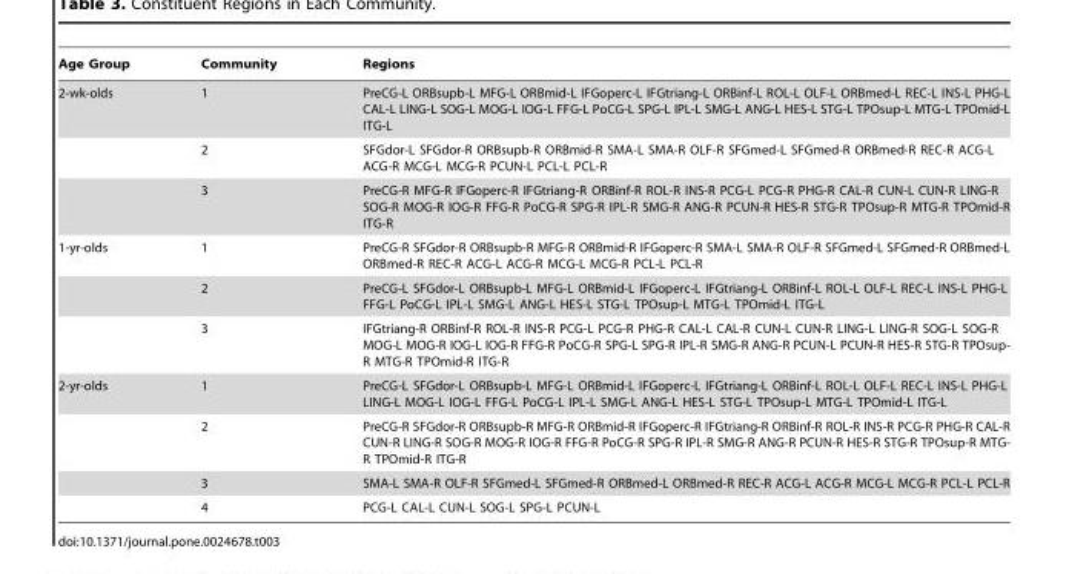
<table><thead><tr><td>Age Group</td><td>Community</td><td>Regions</td></tr></thead><tbody><tr><td rowspan="3">2-wk-olds</td><td>1</td><td>PreCG-L ORBsupb-L MFG-L ORBmid-L IFGoperc-L IFGtriang-L ORBinf-L ROL-L OLF-L ORBmed-L REC-L INS-L PHG-L CAL-L LING-L SOG-L MOG-L IOG-L FFG-L PoCG-L SPG-L IPL-L SMG-L ANG-L HES-L STG-L TPOsup-L MTG-L TPOmid-L ITG-L</td></tr><tr><td>2</td><td>SFGdor-L SFGdor-R ORBsupb-R ORBmid-R SMA-L SMA-R OLF-R SFGmed-L SFGmed-R ORBmed-R REC-R ACG-L ACG-R MCG-L MCG-R PCUN-L PCL-L PCL-R</td></tr><tr><td>3</td><td>PreCG-R MFG-R IFGoperc-R IFGtriang-R ORBinf-R ROL-R INS-R PCG-L PCG-R PHG-R CAL-R CUN-L CUN-R LING-R SOG-R MOG-R IOG-R FFG-R PoCG-R SPG-R IPL-R SMG-R ANG-R PCUN-R HES-R STG-R TPOsup-R MTG-R TPOmid-R ITG-R</td></tr><tr><td rowspan="3">1-yr-olds</td><td>1</td><td>PreCG-R SFGdor-R ORBsupb-R MFG-R ORBmid-R IFGoperc-R SMA-L SMA-R OLF-R SFGmed-L SFGmed-R ORBmed-L ORBmed-R REC-R ACG-L ACG-R MCG-L MCG-R PCL-L PCL-R</td></tr><tr><td>2</td><td>PreCG-L SFGdor-L ORBsupb-L MFG-L ORBmid-L IFGoperc-L IFGtriang-L ORBinf-L ROL-L OLF-L REC-L INS-L PHG-L FFG-L PoCG-L IPL-L SMG-L ANG-L HES-L STG-L TPOsup-L MTG-L TPOmid-L ITG-L</td></tr><tr><td>3</td><td>IFGtriang-R ORBinf-R ROL-R INS-R PCG-L PCG-R PHG-R CAL-L CAL-R CUN-L CUN-R LING-L LING-R SOG-L SOG-R MOG-L MOG-R IOG-L IOG-R FFG-R PoCG-R SPG-L SPG-R IPL-R SMG-R ANG-R PCUN-L PCUN-R HES-R STG-R TPOsup- R MTG-R TPOmid-R ITG-R</td></tr><tr><td rowspan="4">2-yr-olds</td><td>1</td><td>PreCG-L SFGdor-L ORBsupb-L MFG-L ORBmid-L IFGoperc-L IFGtriang-L ORBinf-L ROL-L OLF-L REC-L INS-L PHG-L LING-L MOG-L IOG-L FFG-L PoCG-L IPL-L SMG-L ANG-L HES-L STG-L TPOsup-L MTG-L TPOmid-L ITG-L</td></tr><tr><td>2</td><td>PreCG-R SFGdor-R ORBsupb-R MFG-R ORBmid-R IFGoperc-R IFGtriang-R ORBinf-R ROL-R INS-R PCG-R PHG-R CAL-R CUN-R LING-R SOG-R MOG-R IOG-R FFG-R PoCG-R SPG-R IPL-R SMG-R ANG-R PCUN-R HES-R STG-R TPOsup-R MTG- R TPOmid-R ITG-R</td></tr><tr><td>3</td><td>SMA-L SMA-R OLF-R SFGmed-L SFGmed-R ORBmed-L ORBmed-R REC-R ACG-L ACG-R MCG-L MCG-R PCL-L PCL-R</td></tr><tr><td>4</td><td>PCG-L CAL-L CUN-L SOG-L SPG-L PCUN-L</td></tr></tbody></table>